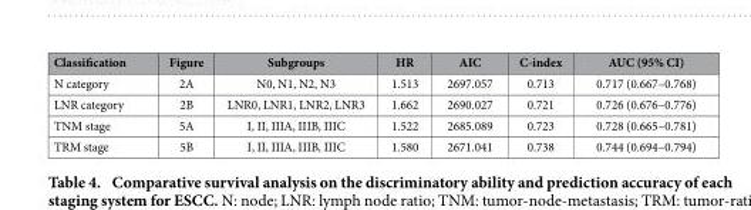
<table><thead><tr><td>Classification</td><td>Figure</td><td>Subgroups</td><td>HR</td><td>AIC</td><td>C-index</td><td>AUC (95% CI)</td></tr></thead><tbody><tr><td>N category</td><td>2A</td><td>N0, N1, N2, N3</td><td>1.513</td><td>2697.057</td><td>0.713</td><td>0.717 (0.667–0.768)</td></tr><tr><td>LNR category</td><td>2B</td><td>LNR0, LNR1, LNR2, LNR3</td><td>1.662</td><td>2690.027</td><td>0.721</td><td>0.726 (0.676–0.776)</td></tr><tr><td>TNM stage</td><td>5A</td><td>I, II, IIIA, IIIB, IIIC</td><td>1.522</td><td>2685.089</td><td>0.723</td><td>0.728 (0.665–0.781)</td></tr><tr><td>TRM stage</td><td>5B</td><td>I, II, IIIA, IIIB, IIIC</td><td>1.580</td><td>2671.041</td><td>0.738</td><td>0.744 (0.694–0.794)</td></tr></tbody></table>